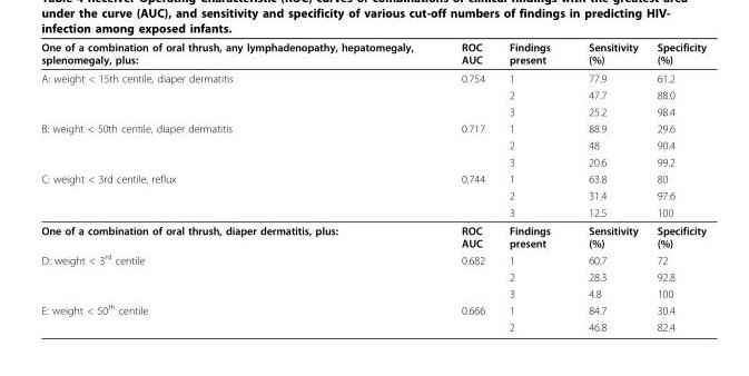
<table><thead><tr><td>One of a combination of oral thrush, any lymphadenopathy, hepatomegaly, splenomegaly, plus:</td><td>ROC AUC</td><td>Findings present</td><td>Sensitivity (%)</td><td>Specificity (%)</td></tr></thead><tbody><tr><td rowspan="3">A: weight &lt; 15th centile, diaper dermatitis</td><td>0.754</td><td>1</td><td>77.9</td><td>61.2</td></tr><tr><td></td><td>2</td><td>47.7</td><td>88.0</td></tr><tr><td></td><td>3</td><td>25.2</td><td>98.4</td></tr><tr><td rowspan="3">B: weight &lt; 50th centile, diaper dermatitis</td><td>0.717</td><td>1</td><td>88.9</td><td>29.6</td></tr><tr><td></td><td>2</td><td>48</td><td>90.4</td></tr><tr><td></td><td>3</td><td>20.6</td><td>99.2</td></tr><tr><td rowspan="3">C: weight &lt; 3rd centile, reflux</td><td>0.744</td><td>1</td><td>63.8</td><td>80</td></tr><tr><td></td><td>2</td><td>31.4</td><td>97.6</td></tr><tr><td></td><td>3</td><td>12.5</td><td>100</td></tr><tr><td>One of a combination of oral thrush, diaper dermatitis, plus:</td><td>ROC AUC</td><td>Findings present</td><td>Sensitivity (%)</td><td>Specificity (%)</td></tr><tr><td rowspan="3">D: weight &lt; 3<sup>rd</sup> centile</td><td>0.682</td><td>1</td><td>60.7</td><td>72</td></tr><tr><td></td><td>2</td><td>28.3</td><td>92.8</td></tr><tr><td></td><td>3</td><td>4.8</td><td>100</td></tr><tr><td rowspan="2">E: weight &lt; 50<sup>th</sup> centile</td><td>0.666</td><td>1</td><td>84.7</td><td>30.4</td></tr><tr><td></td><td>2</td><td>46.8</td><td>82.4</td></tr></tbody></table>